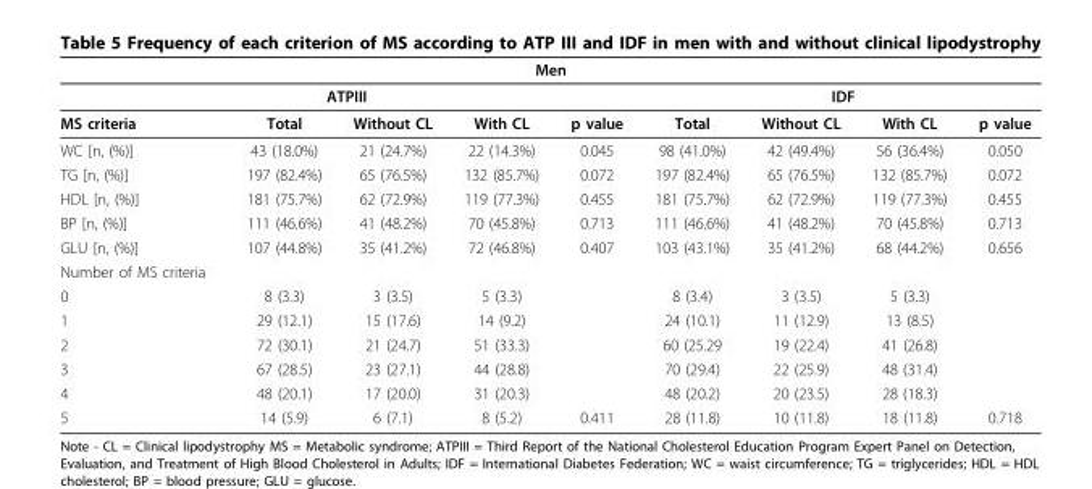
<table><thead><tr><td colspan="9">Men</td></tr><tr><td colspan="5">ATPIII</td><td colspan="4">IDF</td></tr><tr><td>MS criteria</td><td>Total</td><td>Without CL</td><td>With CL</td><td>p value</td><td>Total</td><td>Without CL</td><td>With CL</td><td>p value</td></tr></thead><tbody><tr><td>WC [n, (%)]</td><td>43 (18.0%)</td><td>21 (24.7%)</td><td>22 (14.3%)</td><td>0.045</td><td>98 (41.0%)</td><td>42 (49.4%)</td><td>56 (36.4%)</td><td>0.050</td></tr><tr><td>TG [n, (%)]</td><td>197 (82.4%)</td><td>65 (76.5%)</td><td>132 (85.7%)</td><td>0.072</td><td>197 (82.4%)</td><td>65 (76.5%)</td><td>132 (85.7%)</td><td>0.072</td></tr><tr><td>HDL [n, (%)]</td><td>181 (75.7%)</td><td>62 (72.9%)</td><td>119 (77.3%)</td><td>0.455</td><td>181 (75.7%)</td><td>62 (72.9%)</td><td>119 (77.3%)</td><td>0.455</td></tr><tr><td>BP [n, (%)]</td><td>111 (46.6%)</td><td>41 (48.2%)</td><td>70 (45.8%)</td><td>0.713</td><td>111 (46.6%)</td><td>41 (48.2%)</td><td>70 (45.8%)</td><td>0.713</td></tr><tr><td>GLU [n, (%)]</td><td>107 (44.8%)</td><td>35 (41.2%)</td><td>72 (46.8%)</td><td>0.407</td><td>103 (43.1%)</td><td>35 (41.2%)</td><td>68 (44.2%)</td><td>0.656</td></tr><tr><td colspan="9">Number of MS criteria</td></tr><tr><td>0</td><td>8 (3.3)</td><td>3 (3.5)</td><td>5 (3.3)</td><td></td><td>8 (3.4)</td><td>3 (3.5)</td><td>5 (3.3)</td><td></td></tr><tr><td>1</td><td>29 (12.1)</td><td>15 (17.6)</td><td>14 (9.2)</td><td></td><td>24 (10.1)</td><td>11 (12.9)</td><td>13 (8.5)</td><td></td></tr><tr><td>2</td><td>72 (30.1)</td><td>21 (24.7)</td><td>51 (33.3)</td><td></td><td>60 (25.29</td><td>19 (22.4)</td><td>41 (26.8)</td><td></td></tr><tr><td>3</td><td>67 (28.5)</td><td>23 (27.1)</td><td>44 (28.8)</td><td></td><td>70 (29.4)</td><td>22 (25.9)</td><td>48 (31.4)</td><td></td></tr><tr><td>4</td><td>48 (20.1)</td><td>17 (20.0)</td><td>31 (20.3)</td><td></td><td>48 (20.2)</td><td>20 (23.5)</td><td>28 (18.3)</td><td></td></tr><tr><td>5</td><td>14 (5.9)</td><td>6 (7.1)</td><td>8 (5.2)</td><td>0.411</td><td>28 (11.8)</td><td>10 (11.8)</td><td>18 (11.8)</td><td>0.718</td></tr></tbody></table>